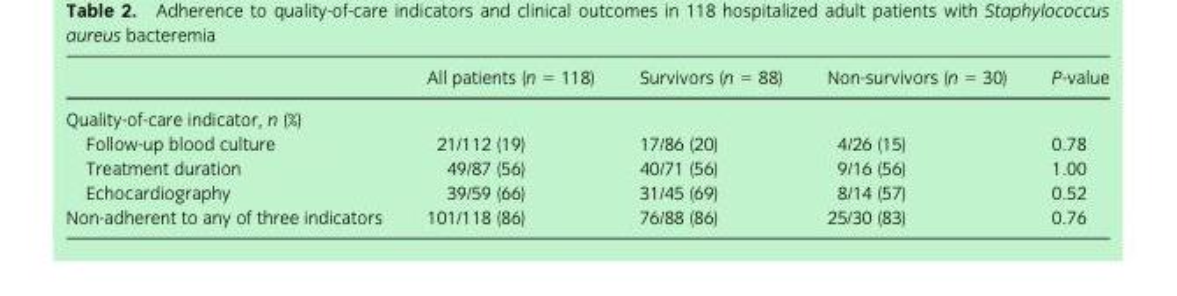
<table><thead><tr><td></td><td>All patients (n = 118)</td><td>Survivors (n = 88)</td><td>Non-survivors (n = 30)</td><td>P-value</td></tr></thead><tbody><tr><td colspan="5">Quality-of-care indicator, n (%)</td></tr><tr><td>Follow-up blood culture</td><td>21/112 (19)</td><td>17/86 (20)</td><td>4/26 (15)</td><td>0.78</td></tr><tr><td>Treatment duration</td><td>49/87 (56)</td><td>40/71 (56)</td><td>9/16 (56)</td><td>1.00</td></tr><tr><td>Echocardiography</td><td>39/59 (66)</td><td>31/45 (69)</td><td>8/14 (57)</td><td>0.52</td></tr><tr><td>Non-adherent to any of three indicators</td><td>101/118 (86)</td><td>76/88 (86)</td><td>25/30 (83)</td><td>0.76</td></tr></tbody></table>